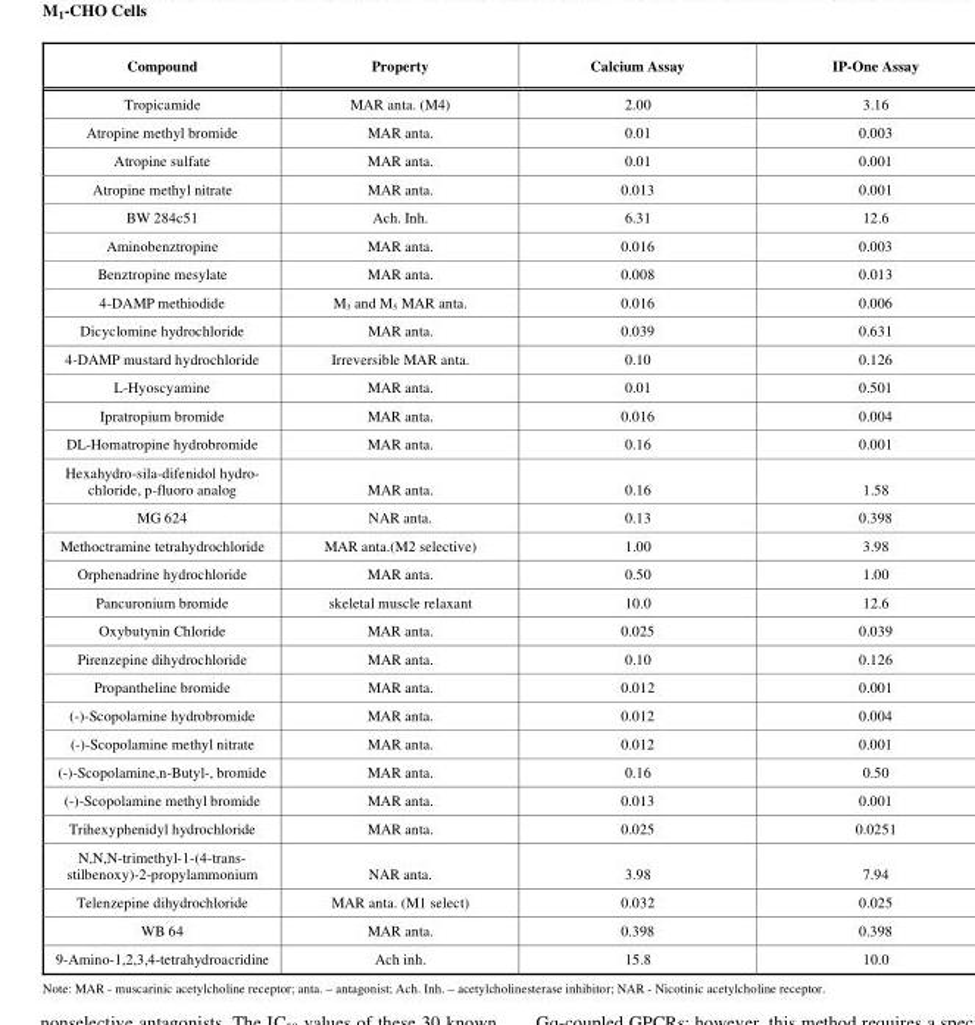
<table><thead><tr><td>Compound</td><td>Property</td><td>Calcium Assay</td><td>IP-One Assay</td></tr></thead><tbody><tr><td>Tropicamide</td><td>MAR anta. (M4)</td><td>2.00</td><td>3.16</td></tr><tr><td>Atropine methyl bromide</td><td>MAR anta.</td><td>0.01</td><td>0.003</td></tr><tr><td>Atropine sulfate</td><td>MAR anta.</td><td>0.01</td><td>0.001</td></tr><tr><td>Atropine methyl nitrate</td><td>MAR anta.</td><td>0.013</td><td>0.001</td></tr><tr><td>BW 284c51</td><td>Ach. Inh.</td><td>6.31</td><td>12.6</td></tr><tr><td>Aminobenztropine</td><td>MAR anta.</td><td>0.016</td><td>0.003</td></tr><tr><td>Benztropine mesylate</td><td>MAR anta.</td><td>0.008</td><td>0.013</td></tr><tr><td>4-DAMP methiodide</td><td>M<sub>3</sub> and M<sub>5</sub> MAR anta.</td><td>0.016</td><td>0.006</td></tr><tr><td>Dicyclomine hydrochloride</td><td>MAR anta.</td><td>0.039</td><td>0.631</td></tr><tr><td>4-DAMP mustard hydrochloride</td><td>Irreversible MAR anta.</td><td>0.10</td><td>0.126</td></tr><tr><td>L-Hyoscyamine</td><td>MAR anta.</td><td>0.01</td><td>0.501</td></tr><tr><td>Ipratropium bromide</td><td>MAR anta.</td><td>0.016</td><td>0.004</td></tr><tr><td>DL-Homatropine hydrobromide</td><td>MAR anta.</td><td>0.16</td><td>0.001</td></tr><tr><td>Hexahydro-sila-difenidol hydro- chloride, p-fluoro analog</td><td>MAR anta.</td><td>0.16</td><td>1.58</td></tr><tr><td>MG 624</td><td>NAR anta.</td><td>0.13</td><td>0.398</td></tr><tr><td>Methoctramine tetrahydrochloride</td><td>MAR anta.(M2 selective)</td><td>1.00</td><td>3.98</td></tr><tr><td>Orphenadrine hydrochloride</td><td>MAR anta.</td><td>0.50</td><td>1.00</td></tr><tr><td>Pancuronium bromide</td><td>skeletal muscle relaxant</td><td>10.0</td><td>12.6</td></tr><tr><td>Oxybutynin Chloride</td><td>MAR anta.</td><td>0.025</td><td>0.039</td></tr><tr><td>Pirenzepine dihydrochloride</td><td>MAR anta.</td><td>0.10</td><td>0.126</td></tr><tr><td>Propantheline bromide</td><td>MAR anta.</td><td>0.012</td><td>0.001</td></tr><tr><td>(-)-Scopolamine hydrobromide</td><td>MAR anta.</td><td>0.012</td><td>0.004</td></tr><tr><td>(-)-Scopolamine methyl nitrate</td><td>MAR anta.</td><td>0.012</td><td>0.001</td></tr><tr><td>(-)-Scopolamine,n-Butyl-, bromide</td><td>MAR anta.</td><td>0.16</td><td>0.50</td></tr><tr><td>(-)-Scopolamine methyl bromide</td><td>MAR anta.</td><td>0.013</td><td>0.001</td></tr><tr><td>Trihexyphenidyl hydrochloride</td><td>MAR anta.</td><td>0.025</td><td>0.0251</td></tr><tr><td>N,N,N-trimethyl-1-(4-trans- stilbenoxy)-2-propylammonium</td><td>NAR anta.</td><td>3.98</td><td>7.94</td></tr><tr><td>Telenzepine dihydrochloride</td><td>MAR anta. (M1 select)</td><td>0.032</td><td>0.025</td></tr><tr><td>WB 64</td><td>MAR anta.</td><td>0.398</td><td>0.398</td></tr><tr><td>9-Amino-1,2,3,4-tetrahydroacridine</td><td>Ach inh.</td><td>15.8</td><td>10.0</td></tr></tbody></table>